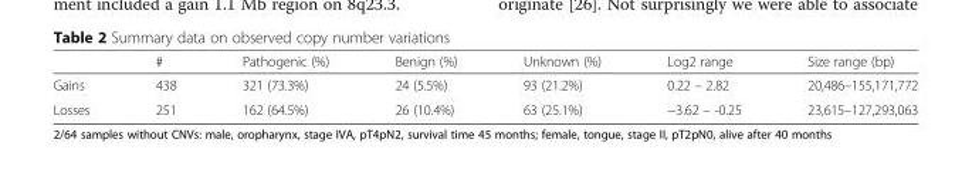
<table><thead><tr><td></td><td>#</td><td>Pathogenic (%)</td><td>Benign (%)</td><td>Unknown (%)</td><td>Log2 range</td><td>Size range (bp)</td></tr></thead><tbody><tr><td>Gains</td><td>438</td><td>321 (73.3%)</td><td>24 (5.5%)</td><td>93 (21.2%)</td><td>0.22 – 2.82</td><td>20,486–155,171,772</td></tr><tr><td>Losses</td><td>251</td><td>162 (64.5%)</td><td>26 (10.4%)</td><td>63 (25.1%)</td><td>−3.62 – -0.25</td><td>23,615–127,293,063</td></tr></tbody></table>